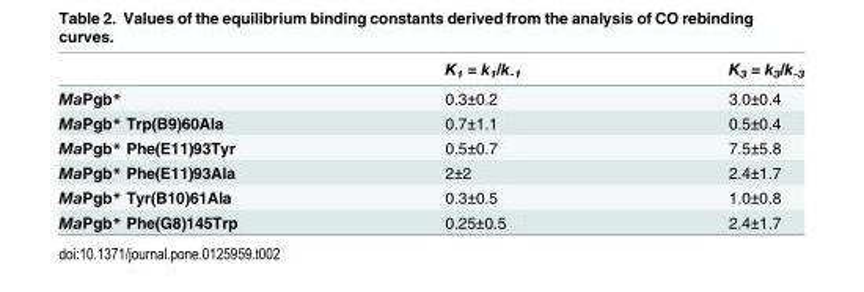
<table><thead><tr><td></td><td>K<sub>1</sub> = k<sub>1</sub>/k<sub>-1</sub></td><td>K<sub>3</sub> = k<sub>3</sub>/k<sub>-3</sub></td></tr></thead><tbody><tr><td>MaPgb*</td><td>0.3±0.2</td><td>3.0±0.4</td></tr><tr><td>MaPgb* Trp(B9)60Ala</td><td>0.7±1.1</td><td>0.5±0.4</td></tr><tr><td>MaPgb* Phe(E11)93Tyr</td><td>0.5±0.7</td><td>7.5±5.8</td></tr><tr><td>MaPgb* Phe(E11)93Ala</td><td>2±2</td><td>2.4±1.7</td></tr><tr><td>MaPgb* Tyr(B10)61Ala</td><td>0.3±0.5</td><td>1.0±0.8</td></tr><tr><td>MaPgb* Phe(G8)145Trp</td><td>0.25±0.5</td><td>2.4±1.7</td></tr></tbody></table>